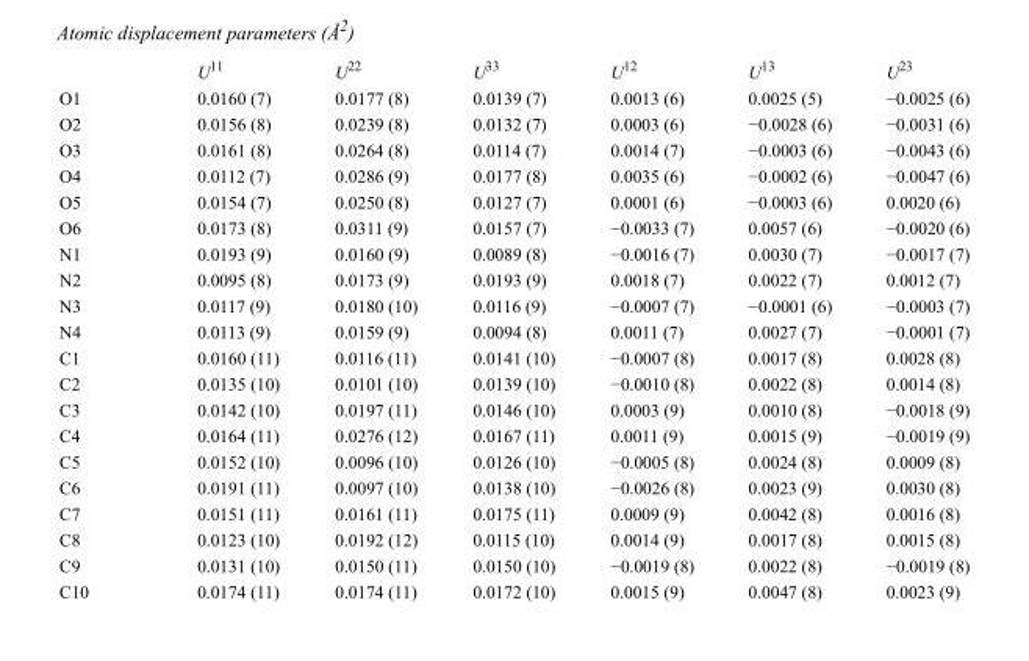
<table><thead><tr><td></td><td>U<sup>11</sup></td><td>U<sup>22</sup></td><td>U<sup>33</sup></td><td>U<sup>12</sup></td><td>U<sup>13</sup></td><td>U<sup>23</sup></td></tr></thead><tbody><tr><td>O1</td><td>0.0160 (7)</td><td>0.0177 (8)</td><td>0.0139 (7)</td><td>0.0013 (6)</td><td>0.0025 (5)</td><td>−0.0025 (6)</td></tr><tr><td>O2</td><td>0.0156 (8)</td><td>0.0239 (8)</td><td>0.0132 (7)</td><td>0.0003 (6)</td><td>−0.0028 (6)</td><td>−0.0031 (6)</td></tr><tr><td>O3</td><td>0.0161 (8)</td><td>0.0264 (8)</td><td>0.0114 (7)</td><td>0.0014 (7)</td><td>−0.0003 (6)</td><td>−0.0043 (6)</td></tr><tr><td>O4</td><td>0.0112 (7)</td><td>0.0286 (9)</td><td>0.0177 (8)</td><td>0.0035 (6)</td><td>−0.0002 (6)</td><td>−0.0047 (6)</td></tr><tr><td>O5</td><td>0.0154 (7)</td><td>0.0250 (8)</td><td>0.0127 (7)</td><td>0.0001 (6)</td><td>−0.0003 (6)</td><td>0.0020 (6)</td></tr><tr><td>O6</td><td>0.0173 (8)</td><td>0.0311 (9)</td><td>0.0157 (7)</td><td>−0.0033 (7)</td><td>0.0057 (6)</td><td>−0.0020 (6)</td></tr><tr><td>N1</td><td>0.0193 (9)</td><td>0.0160 (9)</td><td>0.0089 (8)</td><td>−0.0016 (7)</td><td>0.0030 (7)</td><td>−0.0017 (7)</td></tr><tr><td>N2</td><td>0.0095 (8)</td><td>0.0173 (9)</td><td>0.0193 (9)</td><td>0.0018 (7)</td><td>0.0022 (7)</td><td>0.0012 (7)</td></tr><tr><td>N3</td><td>0.0117 (9)</td><td>0.0180 (10)</td><td>0.0116 (9)</td><td>−0.0007 (7)</td><td>−0.0001 (6)</td><td>−0.0003 (7)</td></tr><tr><td>N4</td><td>0.0113 (9)</td><td>0.0159 (9)</td><td>0.0094 (8)</td><td>0.0011 (7)</td><td>0.0027 (7)</td><td>−0.0001 (7)</td></tr><tr><td>C1</td><td>0.0160 (11)</td><td>0.0116 (11)</td><td>0.0141 (10)</td><td>−0.0007 (8)</td><td>0.0017 (8)</td><td>0.0028 (8)</td></tr><tr><td>C2</td><td>0.0135 (10)</td><td>0.0101 (10)</td><td>0.0139 (10)</td><td>−0.0010 (8)</td><td>0.0022 (8)</td><td>0.0014 (8)</td></tr><tr><td>C3</td><td>0.0142 (10)</td><td>0.0197 (11)</td><td>0.0146 (10)</td><td>0.0003 (9)</td><td>0.0010 (8)</td><td>−0.0018 (9)</td></tr><tr><td>C4</td><td>0.0164 (11)</td><td>0.0276 (12)</td><td>0.0167 (11)</td><td>0.0011 (9)</td><td>0.0015 (9)</td><td>−0.0019 (9)</td></tr><tr><td>C5</td><td>0.0152 (10)</td><td>0.0096 (10)</td><td>0.0126 (10)</td><td>−0.0005 (8)</td><td>0.0024 (8)</td><td>0.0009 (8)</td></tr><tr><td>C6</td><td>0.0191 (11)</td><td>0.0097 (10)</td><td>0.0138 (10)</td><td>−0.0026 (8)</td><td>0.0023 (9)</td><td>0.0030 (8)</td></tr><tr><td>C7</td><td>0.0151 (11)</td><td>0.0161 (11)</td><td>0.0175 (11)</td><td>0.0009 (9)</td><td>0.0042 (8)</td><td>0.0016 (8)</td></tr><tr><td>C8</td><td>0.0123 (10)</td><td>0.0192 (12)</td><td>0.0115 (10)</td><td>0.0014 (9)</td><td>0.0017 (8)</td><td>0.0015 (8)</td></tr><tr><td>C9</td><td>0.0131 (10)</td><td>0.0150 (11)</td><td>0.0150 (10)</td><td>−0.0019 (8)</td><td>0.0022 (8)</td><td>−0.0019 (8)</td></tr><tr><td>C10</td><td>0.0174 (11)</td><td>0.0174 (11)</td><td>0.0172 (10)</td><td>0.0015 (9)</td><td>0.0047 (8)</td><td>0.0023 (9)</td></tr></tbody></table>